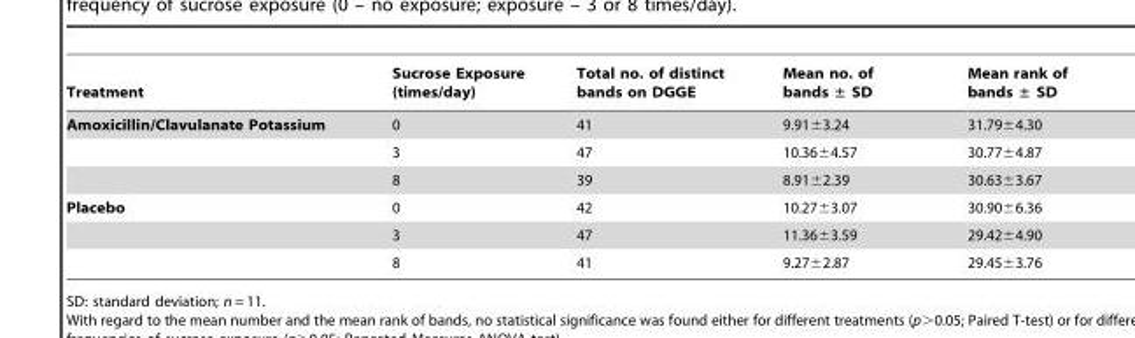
<table><thead><tr><td>Treatment</td><td>Sucrose Exposure (times/day)</td><td>Total no. of distinct bands on DGGE</td><td>Mean no. of bands ± SD</td><td>Mean rank of bands ± SD</td></tr></thead><tbody><tr><td rowspan="3">Amoxicillin/Clavulanate Potassium</td><td>0</td><td>41</td><td>9.91±3.24</td><td>31.79±4.30</td></tr><tr><td>3</td><td>47</td><td>10.36±4.57</td><td>30.77±4.87</td></tr><tr><td>8</td><td>39</td><td>8.91±2.39</td><td>30.63±3.67</td></tr><tr><td rowspan="3">Placebo</td><td>0</td><td>42</td><td>10.27±3.07</td><td>30.90±6.36</td></tr><tr><td>3</td><td>47</td><td>11.36±3.59</td><td>29.42±4.90</td></tr><tr><td>8</td><td>41</td><td>9.27±2.87</td><td>29.45±3.76</td></tr></tbody></table>